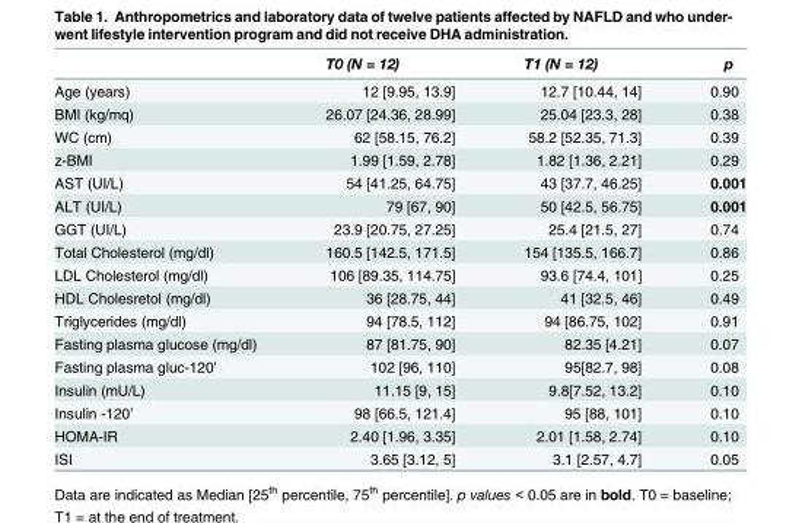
<table><thead><tr><td></td><td>T0 (N = 12)</td><td>T1 (N = 12)</td><td>p</td></tr></thead><tbody><tr><td>Age (years)</td><td>12 [9.95, 13.9]</td><td>12.7 [10.44, 14]</td><td>0.90</td></tr><tr><td>BMI (kg/mq)</td><td>26.07 [24.36, 28.99]</td><td>25.04 [23.3, 28]</td><td>0.38</td></tr><tr><td>WC (cm)</td><td>62 [58.15, 76.2]</td><td>58.2 [52.35, 71.3]</td><td>0.39</td></tr><tr><td>z-BMI</td><td>1.99 [1.59, 2.78]</td><td>1.82 [1.36, 2.21]</td><td>0.29</td></tr><tr><td>AST (UI/L)</td><td>54 [41.25, 64.75]</td><td>43 [37.7, 46.25]</td><td>0.001</td></tr><tr><td>ALT (UI/L)</td><td>79 [67, 90]</td><td>50 [42.5, 56.75]</td><td>0.001</td></tr><tr><td>GGT (UI/L)</td><td>23.9 [20.75, 27.25]</td><td>25.4 [21.5, 27]</td><td>0.74</td></tr><tr><td>Total Cholesterol (mg/dl)</td><td>160.5 [142.5, 171.5]</td><td>154 [135.5, 166.7]</td><td>0.86</td></tr><tr><td>LDL Cholesterol (mg/dl)</td><td>106 [89.35, 114.75]</td><td>93.6 [74.4, 101]</td><td>0.25</td></tr><tr><td>HDL Cholesretol (mg/dl)</td><td>36 [28.75, 44]</td><td>41 [32.5, 46]</td><td>0.49</td></tr><tr><td>Triglycerides (mg/dl)</td><td>94 [78.5, 112]</td><td>94 [86.75, 102]</td><td>0.91</td></tr><tr><td>Fasting plasma glucose (mg/dl)</td><td>87 [81.75, 90]</td><td>82.35 [4.21]</td><td>0.07</td></tr><tr><td>Fasting plasma gluc-120’</td><td>102 [96, 110]</td><td>95[82.7, 98]</td><td>0.08</td></tr><tr><td>Insulin (mU/L)</td><td>11.15 [9, 15]</td><td>9.8[7.52, 13.2]</td><td>0.10</td></tr><tr><td>Insulin -120’</td><td>98 [66.5, 121.4]</td><td>95 [88, 101]</td><td>0.10</td></tr><tr><td>HOMA-IR</td><td>2.40 [1.96, 3.35]</td><td>2.01 [1.58, 2.74]</td><td>0.10</td></tr><tr><td>ISI</td><td>3.65 [3.12, 5]</td><td>3.1 [2.57, 4.7]</td><td>0.05</td></tr></tbody></table>